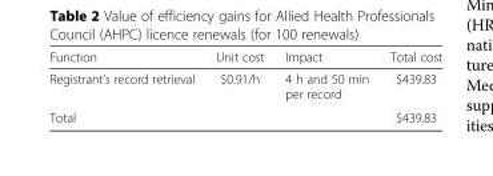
<table><thead><tr><td>Function</td><td>Unit cost</td><td>Impact</td><td>Total cost</td></tr></thead><tbody><tr><td>Registrant’s record retrieval</td><td>$0.91/h</td><td>4 h and 50 min per record</td><td>$439.83</td></tr><tr><td colspan="3">Total</td><td>$439.83</td></tr></tbody></table>